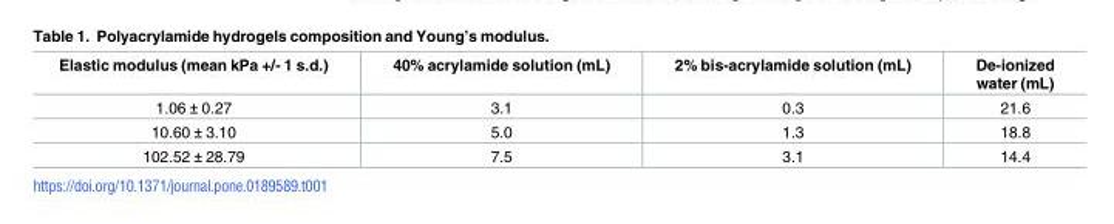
<table><thead><tr><td>Elastic modulus (mean kPa +/- 1 s.d.)</td><td>40% acrylamide solution (mL)</td><td>2% bis-acrylamide solution (mL)</td><td>De-ionized water (mL)</td></tr></thead><tbody><tr><td>1.06 ± 0.27</td><td>3.1</td><td>0.3</td><td>21.6</td></tr><tr><td>10.60 ± 3.10</td><td>5.0</td><td>1.3</td><td>18.8</td></tr><tr><td>102.52 ± 28.79</td><td>7.5</td><td>3.1</td><td>14.4</td></tr></tbody></table>